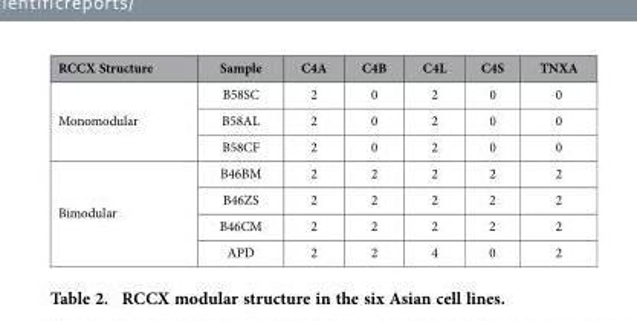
<table><thead><tr><td>RCCX Structure</td><td>Sample</td><td>C4A</td><td>C4B</td><td>C4L</td><td>C4S</td><td>TNXA</td></tr></thead><tbody><tr><td rowspan="3">Monomodular</td><td>B58SC</td><td>2</td><td>0</td><td>2</td><td>0</td><td>0</td></tr><tr><td>B58AL</td><td>2</td><td>0</td><td>2</td><td>0</td><td>0</td></tr><tr><td>B58CF</td><td>2</td><td>0</td><td>2</td><td>0</td><td>0</td></tr><tr><td rowspan="4">Bimodular</td><td>B46BM</td><td>2</td><td>2</td><td>2</td><td>2</td><td>2</td></tr><tr><td>B46ZS</td><td>2</td><td>2</td><td>2</td><td>2</td><td>2</td></tr><tr><td>B46CM</td><td>2</td><td>2</td><td>2</td><td>2</td><td>2</td></tr><tr><td>APD</td><td>2</td><td>2</td><td>4</td><td>0</td><td>2</td></tr></tbody></table>